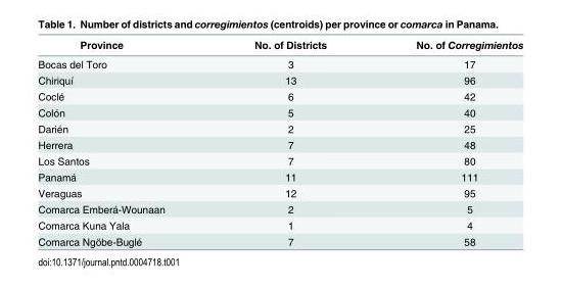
<table><thead><tr><td>Province</td><td>No. of Districts</td><td>No. of Corregimientos</td></tr></thead><tbody><tr><td>Bocas del Toro</td><td>3</td><td>17</td></tr><tr><td>Chiriquí</td><td>13</td><td>96</td></tr><tr><td>Coclé</td><td>6</td><td>42</td></tr><tr><td>Colón</td><td>5</td><td>40</td></tr><tr><td>Darién</td><td>2</td><td>25</td></tr><tr><td>Herrera</td><td>7</td><td>48</td></tr><tr><td>Los Santos</td><td>7</td><td>80</td></tr><tr><td>Panamá</td><td>11</td><td>111</td></tr><tr><td>Veraguas</td><td>12</td><td>95</td></tr><tr><td>Comarca Emberá-Wounaan</td><td>2</td><td>5</td></tr><tr><td>Comarca Kuna Yala</td><td>1</td><td>4</td></tr><tr><td>Comarca Ngöbe-Buglé</td><td>7</td><td>58</td></tr></tbody></table>